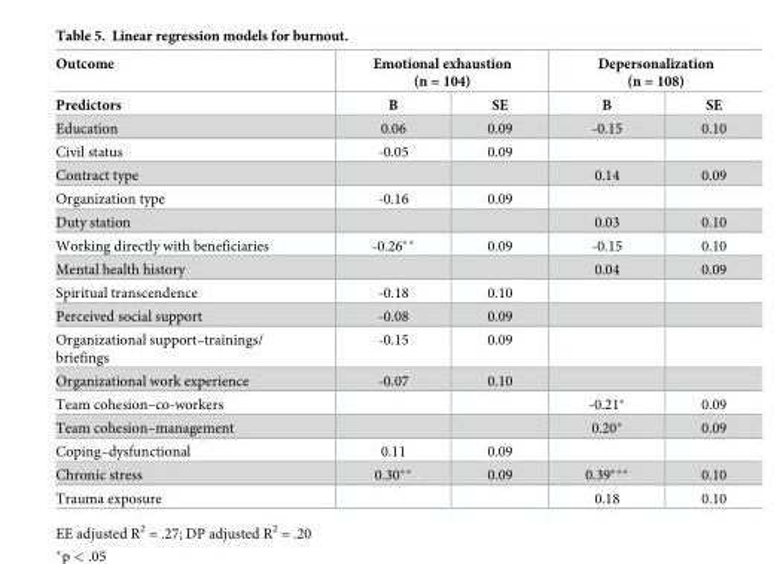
<table><thead><tr><td rowspan="2">Outcome Predictors</td><td colspan="2">Emotional exhaustion (n = 104)</td><td colspan="2">Depersonalization (n = 108)</td></tr><tr><td>B</td><td>SE</td><td>B</td><td>SE</td></tr></thead><tbody><tr><td>Education</td><td>0.06</td><td>0.09</td><td>-0.15</td><td>0.10</td></tr><tr><td>Civil status</td><td>-0.05</td><td>0.09</td><td></td><td></td></tr><tr><td>Contract type</td><td></td><td></td><td>0.14</td><td>0.09</td></tr><tr><td>Organization type</td><td>-0.16</td><td>0.09</td><td></td><td></td></tr><tr><td>Duty station</td><td></td><td></td><td>0.03</td><td>0.10</td></tr><tr><td>Working directly with beneficiaries</td><td>-0.26**</td><td>0.09</td><td>-0.15</td><td>0.10</td></tr><tr><td>Mental health history</td><td></td><td></td><td>0.04</td><td>0.09</td></tr><tr><td>Spiritual transcendence</td><td>-0.18</td><td>0.10</td><td></td><td></td></tr><tr><td>Perceived social support</td><td>-0.08</td><td>0.09</td><td></td><td></td></tr><tr><td>Organizational support–trainings/ briefings</td><td>-0.15</td><td>0.09</td><td></td><td></td></tr><tr><td>Organizational work experience</td><td>-0.07</td><td>0.10</td><td></td><td></td></tr><tr><td>Team cohesion–co-workers</td><td></td><td></td><td>-0.21*</td><td>0.09</td></tr><tr><td>Team cohesion–management</td><td></td><td></td><td>0.20*</td><td>0.09</td></tr><tr><td>Coping–dysfunctional</td><td>0.11</td><td>0.09</td><td></td><td></td></tr><tr><td>Chronic stress</td><td>0.30**</td><td>0.09</td><td>0.39***</td><td>0.10</td></tr><tr><td>Trauma exposure</td><td></td><td></td><td>0.18</td><td>0.10</td></tr></tbody></table>